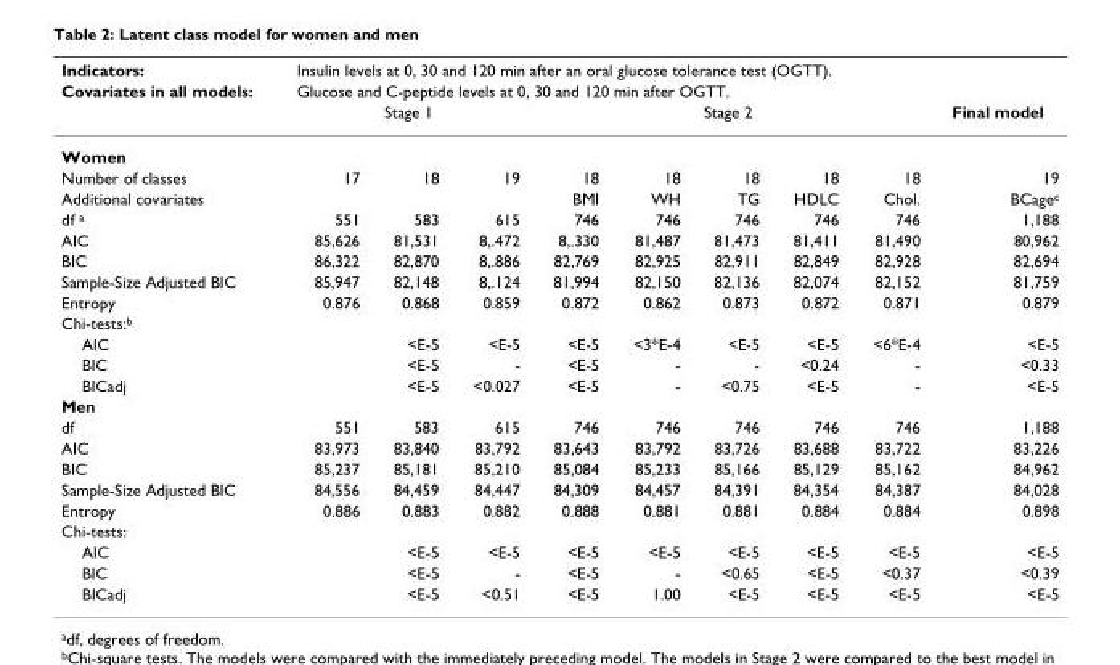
<table><thead><tr><td rowspan="4">Indicators: Covariates in all models: Women</td><td rowspan="2" colspan="9">Insulin levels at 0, 30 and 120 min after an oral glucose tolerance test (OGTT). Glucose and C-peptide levels at 0, 30 and 120 min after OGTT.</td></tr><tr></tr><tr><td colspan="3">Stage 1</td><td colspan="5">Stage 2</td><td rowspan="2">Final model</td></tr><tr><td></td><td></td><td></td><td></td><td></td><td></td><td></td><td></td></tr></thead><tbody><tr><td>Number of classes</td><td>17</td><td>18</td><td>19</td><td>18</td><td>18</td><td>18</td><td>18</td><td>18</td><td>19</td></tr><tr><td>Additional covariates</td><td></td><td></td><td></td><td>BMI</td><td>WH</td><td>TG</td><td>HDLC</td><td>Chol.</td><td>BCage<sup>c</sup></td></tr><tr><td>df <sup>a</sup></td><td>551</td><td>583</td><td>615</td><td>746</td><td>746</td><td>746</td><td>746</td><td>746</td><td>1,188</td></tr><tr><td>AIC</td><td>85,626</td><td>81,531</td><td>8,.472</td><td>8,.330</td><td>81,487</td><td>81,473</td><td>81,411</td><td>81,490</td><td>80,962</td></tr><tr><td>BIC</td><td>86,322</td><td>82,870</td><td>8,.886</td><td>82,769</td><td>82,925</td><td>82,911</td><td>82,849</td><td>82,928</td><td>82,694</td></tr><tr><td>Sample-Size Adjusted BIC</td><td>85,947</td><td>82,148</td><td>8,.124</td><td>81,994</td><td>82,150</td><td>82,136</td><td>82,074</td><td>82,152</td><td>81,759</td></tr><tr><td>Entropy</td><td>0.876</td><td>0.868</td><td>0.859</td><td>0.872</td><td>0.862</td><td>0.873</td><td>0.872</td><td>0.871</td><td>0.879</td></tr><tr><td colspan="10">Chi-tests:<sup>b</sup></td></tr><tr><td>AIC</td><td></td><td>&lt;E-5</td><td>&lt;E-5</td><td>&lt;E-5</td><td>&lt;3*E-4</td><td>&lt;E-5</td><td>&lt;E-5</td><td>&lt;6*E-4</td><td>&lt;E-5</td></tr><tr><td>BIC</td><td></td><td>&lt;E-5</td><td>-</td><td>&lt;E-5</td><td>-</td><td>-</td><td>&lt;0.24</td><td>-</td><td>&lt;0.33</td></tr><tr><td>BICadj</td><td></td><td>&lt;E-5</td><td>&lt;0.027</td><td>&lt;E-5</td><td>-</td><td>&lt;0.75</td><td>&lt;E-5</td><td>-</td><td>&lt;E-5</td></tr><tr><td colspan="10">Men</td></tr><tr><td>df</td><td>551</td><td>583</td><td>615</td><td>746</td><td>746</td><td>746</td><td>746</td><td>746</td><td>1,188</td></tr><tr><td>AIC</td><td>83,973</td><td>83,840</td><td>83,792</td><td>83,643</td><td>83,792</td><td>83,726</td><td>83,688</td><td>83,722</td><td>83,226</td></tr><tr><td>BIC</td><td>85,237</td><td>85,181</td><td>85,210</td><td>85,084</td><td>85,233</td><td>85,166</td><td>85,129</td><td>85,162</td><td>84,962</td></tr><tr><td>Sample-Size Adjusted BIC</td><td>84,556</td><td>84,459</td><td>84,447</td><td>84,309</td><td>84,457</td><td>84,391</td><td>84,354</td><td>84,387</td><td>84,028</td></tr><tr><td>Entropy</td><td>0.886</td><td>0.883</td><td>0.882</td><td>0.888</td><td>0.881</td><td>0.881</td><td>0.884</td><td>0.884</td><td>0.898</td></tr><tr><td colspan="10">Chi-tests:</td></tr><tr><td>AIC</td><td></td><td>&lt;E-5</td><td>&lt;E-5</td><td>&lt;E-5</td><td>&lt;E-5</td><td>&lt;E-5</td><td>&lt;E-5</td><td>&lt;E-5</td><td>&lt;E-5</td></tr><tr><td>BIC</td><td></td><td>&lt;E-5</td><td>-</td><td>&lt;E-5</td><td>-</td><td>&lt;0.65</td><td>&lt;E-5</td><td>&lt;0.37</td><td>&lt;0.39</td></tr><tr><td>BICadj</td><td></td><td>&lt;E-5</td><td>&lt;0.51</td><td>&lt;E-5</td><td>1.00</td><td>&lt;E-5</td><td>&lt;E-5</td><td>&lt;E-5</td><td>&lt;E-5</td></tr></tbody></table>